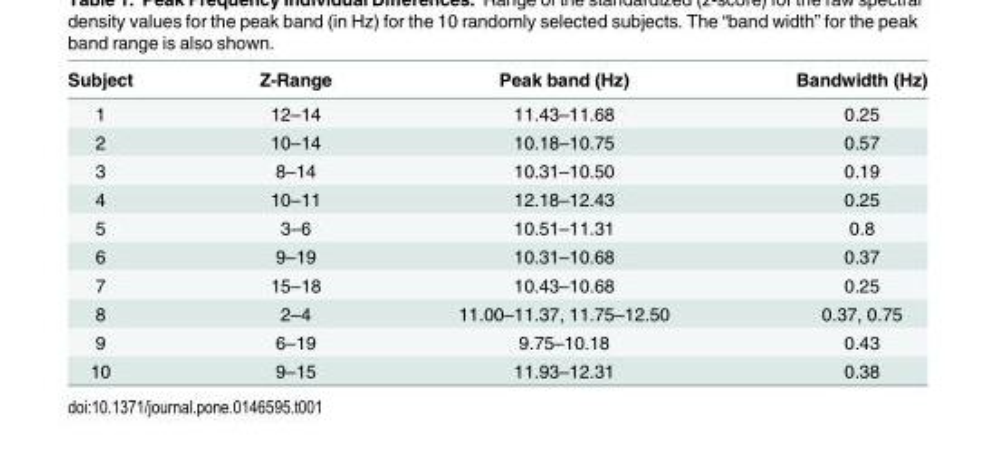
<table><thead><tr><td>Subject</td><td>Z-Range</td><td>Peak band (Hz)</td><td>Bandwidth (Hz)</td></tr></thead><tbody><tr><td>1</td><td>12–14</td><td>11.43–11.68</td><td>0.25</td></tr><tr><td>2</td><td>10–14</td><td>10.18–10.75</td><td>0.57</td></tr><tr><td>3</td><td>8–14</td><td>10.31–10.50</td><td>0.19</td></tr><tr><td>4</td><td>10–11</td><td>12.18–12.43</td><td>0.25</td></tr><tr><td>5</td><td>3–6</td><td>10.51–11.31</td><td>0.8</td></tr><tr><td>6</td><td>9–19</td><td>10.31–10.68</td><td>0.37</td></tr><tr><td>7</td><td>15–18</td><td>10.43–10.68</td><td>0.25</td></tr><tr><td>8</td><td>2–4</td><td>11.00–11.37, 11.75–12.50</td><td>0.37, 0.75</td></tr><tr><td>9</td><td>6–19</td><td>9.75–10.18</td><td>0.43</td></tr><tr><td>10</td><td>9–15</td><td>11.93–12.31</td><td>0.38</td></tr></tbody></table>